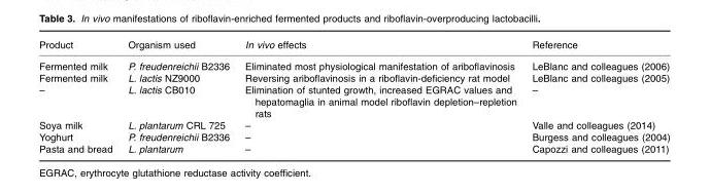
<table><thead><tr><td>Product</td><td>Organism used</td><td>In vivo effects</td><td>Reference</td></tr></thead><tbody><tr><td>Fermented milk</td><td>P. freudenreichii B2336</td><td>Eliminated most physiological manifestation of ariboflavinosis</td><td>LeBlanc and colleagues (2006)</td></tr><tr><td>Fermented milk</td><td>L. lactis NZ9000</td><td>Reversing ariboflavinosis in a riboflavin-deficiency rat model</td><td>LeBlanc and colleagues (2005)</td></tr><tr><td>–</td><td>L. lactis CB010</td><td>Elimination of stunted growth, increased EGRAC values and hepatomaglia in animal model riboflavin depletion–repletion rats</td><td>–</td></tr><tr><td>Soya milk</td><td>L. plantarum CRL 725</td><td>–</td><td>Valle and colleagues (2014)</td></tr><tr><td>Yoghurt</td><td>P. freudenreichii B2336</td><td>–</td><td>Burgess and colleagues (2004)</td></tr><tr><td>Pasta and bread</td><td>L. plantarum</td><td>–</td><td>Capozzi and colleagues (2011)</td></tr></tbody></table>